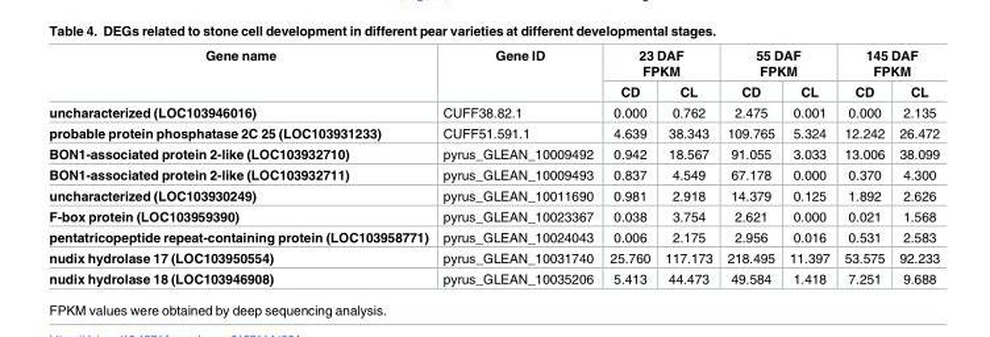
<table><thead><tr><td rowspan="2">Gene name</td><td rowspan="2">Gene ID</td><td colspan="2">23 DAF FPKM</td><td colspan="2">55 DAF FPKM</td><td colspan="2">145 DAF FPKM</td></tr><tr><td>CD</td><td>CL</td><td>CD</td><td>CL</td><td>CD</td><td>CL</td></tr></thead><tbody><tr><td>uncharacterized (LOC103946016)</td><td>CUFF38.82.1</td><td>0.000</td><td>0.762</td><td>2.475</td><td>0.001</td><td>0.000</td><td>2.135</td></tr><tr><td>probable protein phosphatase 2C 25 (LOC103931233)</td><td>CUFF51.591.1</td><td>4.639</td><td>38.343</td><td>109.765</td><td>5.324</td><td>12.242</td><td>26.472</td></tr><tr><td>BON1-associated protein 2-like (LOC103932710)</td><td>pyrus_GLEAN_10009492</td><td>0.942</td><td>18.567</td><td>91.055</td><td>3.033</td><td>13.006</td><td>38.099</td></tr><tr><td>BON1-associated protein 2-like (LOC103932711)</td><td>pyrus_GLEAN_10009493</td><td>0.837</td><td>4.549</td><td>67.178</td><td>0.000</td><td>0.370</td><td>4.300</td></tr><tr><td>uncharacterized (LOC103930249)</td><td>pyrus_GLEAN_10011690</td><td>0.981</td><td>2.918</td><td>14.379</td><td>0.125</td><td>1.892</td><td>2.626</td></tr><tr><td>F-box protein (LOC103959390)</td><td>pyrus_GLEAN_10023367</td><td>0.038</td><td>3.754</td><td>2.621</td><td>0.000</td><td>0.021</td><td>1.568</td></tr><tr><td>pentatricopeptide repeat-containing protein (LOC103958771)</td><td>pyrus_GLEAN_10024043</td><td>0.006</td><td>2.175</td><td>2.956</td><td>0.016</td><td>0.531</td><td>2.583</td></tr><tr><td>nudix hydrolase 17 (LOC103950554)</td><td>pyrus_GLEAN_10031740</td><td>25.760</td><td>117.173</td><td>218.495</td><td>11.397</td><td>53.575</td><td>92.233</td></tr><tr><td>nudix hydrolase 18 (LOC103946908)</td><td>pyrus_GLEAN_10035206</td><td>5.413</td><td>44.473</td><td>49.584</td><td>1.418</td><td>7.251</td><td>9.688</td></tr></tbody></table>